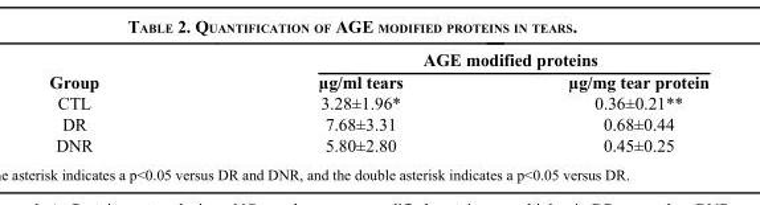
<table><thead><tr><td rowspan="2">Group</td><td colspan="2">AGE modified proteins</td></tr><tr><td>µg/ml tears</td><td>µg/mg tear protein</td></tr></thead><tbody><tr><td>CTL</td><td>3.28±1.96*</td><td>0.36±0.21**</td></tr><tr><td>DR</td><td>7.68±3.31</td><td>0.68±0.44</td></tr><tr><td>DNR</td><td>5.80±2.80</td><td>0.45±0.25</td></tr></tbody></table>